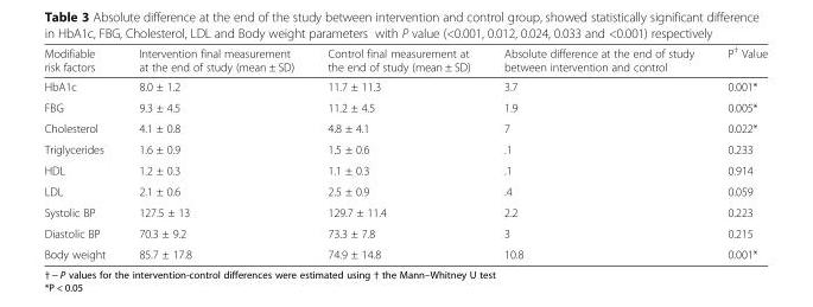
<table><thead><tr><td>Modifiable risk factors</td><td>Intervention final measurement at the end of study (mean ± SD)</td><td>Control final measurement at the end of study (mean ± SD)</td><td>Absolute difference at the end of study between intervention and control</td><td>P<sup>†</sup> Value</td></tr></thead><tbody><tr><td>HbA1c</td><td>8.0 ± 1.2</td><td>11.7 ± 11.3</td><td>3.7</td><td>0.001*</td></tr><tr><td>FBG</td><td>9.3 ± 4.5</td><td>11.2 ± 4.5</td><td>1.9</td><td>0.005*</td></tr><tr><td>Cholesterol</td><td>4.1 ± 0.8</td><td>4.8 ± 4.1</td><td>7</td><td>0.022*</td></tr><tr><td>Triglycerides</td><td>1.6 ± 0.9</td><td>1.5 ± 0.6</td><td>.1</td><td>0.233</td></tr><tr><td>HDL</td><td>1.2 ± 0.3</td><td>1.1 ± 0.3</td><td>.1</td><td>0.914</td></tr><tr><td>LDL</td><td>2.1 ± 0.6</td><td>2.5 ± 0.9</td><td>.4</td><td>0.059</td></tr><tr><td>Systolic BP</td><td>127.5 ± 13</td><td>129.7 ± 11.4</td><td>2.2</td><td>0.223</td></tr><tr><td>Diastolic BP</td><td>70.3 ± 9.2</td><td>73.3 ± 7.8</td><td>3</td><td>0.215</td></tr><tr><td>Body weight</td><td>85.7 ± 17.8</td><td>74.9 ± 14.8</td><td>10.8</td><td>0.001*</td></tr></tbody></table>